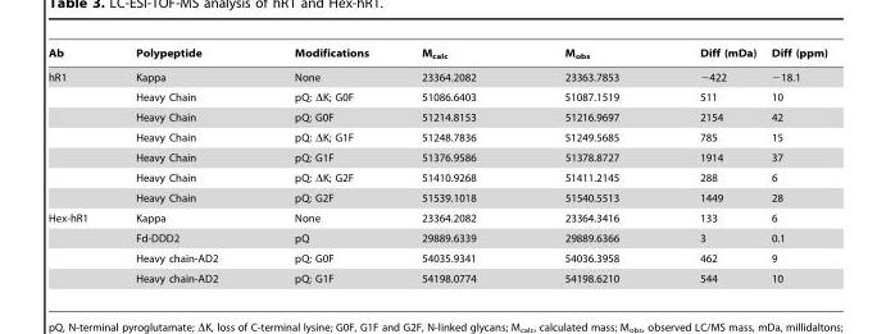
<table><thead><tr><td>Ab</td><td>Polypeptide</td><td>Modifications</td><td>M<sub>calc</sub></td><td>M<sub>obs</sub></td><td>Diff (mDa)</td><td>Diff (ppm)</td></tr></thead><tbody><tr><td rowspan="7">hR1</td><td>Kappa</td><td>None</td><td>23364.2082</td><td>23363.7853</td><td>−422</td><td>−18.1</td></tr><tr><td>Heavy Chain</td><td>pQ; ΔK; G0F</td><td>51086.6403</td><td>51087.1519</td><td>511</td><td>10</td></tr><tr><td>Heavy Chain</td><td>pQ; G0F</td><td>51214.8153</td><td>51216.9697</td><td>2154</td><td>42</td></tr><tr><td>Heavy Chain</td><td>pQ; ΔK; G1F</td><td>51248.7836</td><td>51249.5685</td><td>785</td><td>15</td></tr><tr><td>Heavy Chain</td><td>pQ; G1F</td><td>51376.9586</td><td>51378.8727</td><td>1914</td><td>37</td></tr><tr><td>Heavy Chain</td><td>pQ; ΔK; G2F</td><td>51410.9268</td><td>51411.2145</td><td>288</td><td>6</td></tr><tr><td>Heavy Chain</td><td>pQ; G2F</td><td>51539.1018</td><td>51540.5513</td><td>1449</td><td>28</td></tr><tr><td rowspan="4">Hex-hR1</td><td>Kappa</td><td>None</td><td>23364.2082</td><td>23364.3416</td><td>133</td><td>6</td></tr><tr><td>Fd-DDD2</td><td>pQ</td><td>29889.6339</td><td>29889.6366</td><td>3</td><td>0.1</td></tr><tr><td>Heavy chain-AD2</td><td>pQ; G0F</td><td>54035.9341</td><td>54036.3958</td><td>462</td><td>9</td></tr><tr><td>Heavy chain-AD2</td><td>pQ; G1F</td><td>54198.0774</td><td>54198.6210</td><td>544</td><td>10</td></tr></tbody></table>